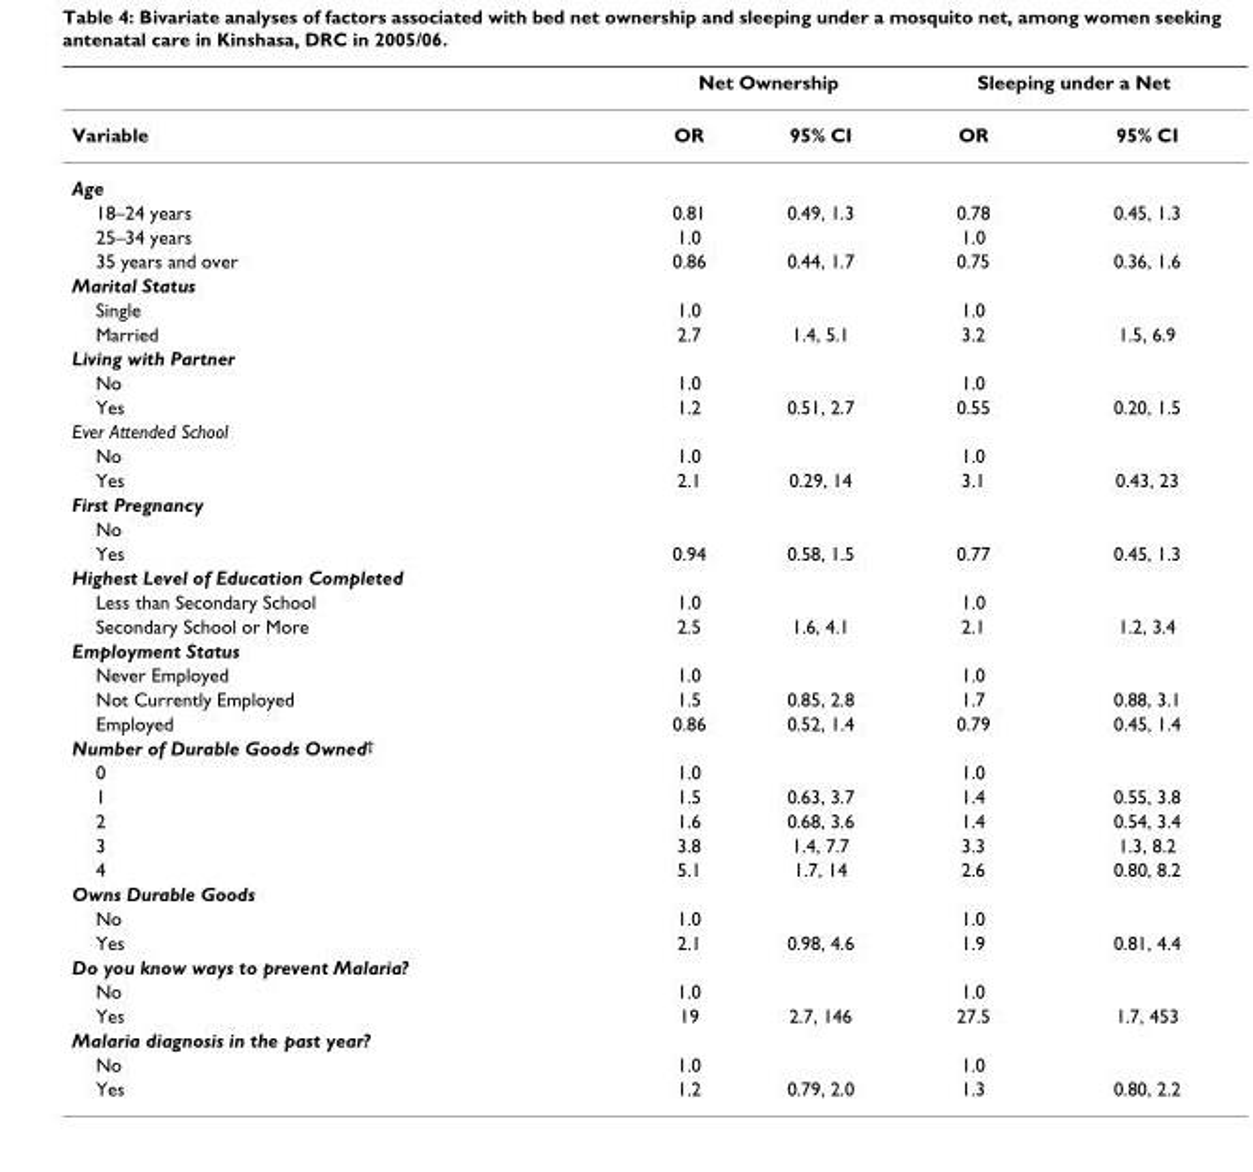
<table><thead><tr><td rowspan="2">Variable</td><td colspan="2">Net Ownership</td><td colspan="2">Sleeping under a Net</td></tr><tr><td>OR</td><td>95% CI</td><td>OR</td><td>95% CI</td></tr></thead><tbody><tr><td colspan="5">Age</td></tr><tr><td>18–24 years</td><td>0.81</td><td>0.49, 1.3</td><td>0.78</td><td>0.45, 1.3</td></tr><tr><td>25–34 years</td><td>1.0</td><td></td><td>1.0</td><td></td></tr><tr><td>35 years and over</td><td>0.86</td><td>0.44, 1.7</td><td>0.75</td><td>0.36, 1.6</td></tr><tr><td colspan="5">Marital Status</td></tr><tr><td>Single</td><td>1.0</td><td></td><td>1.0</td><td></td></tr><tr><td>Married</td><td>2.7</td><td>1.4, 5.1</td><td>3.2</td><td>1.5, 6.9</td></tr><tr><td colspan="5">Living with Partner</td></tr><tr><td>No</td><td>1.0</td><td></td><td>1.0</td><td></td></tr><tr><td>Yes</td><td>1.2</td><td>0.51, 2.7</td><td>0.55</td><td>0.20, 1.5</td></tr><tr><td colspan="5">Ever Attended School</td></tr><tr><td>No</td><td>1.0</td><td></td><td>1.0</td><td></td></tr><tr><td>Yes</td><td>2.1</td><td>0.29, 14</td><td>3.1</td><td>0.43, 23</td></tr><tr><td colspan="5">First Pregnancy</td></tr><tr><td colspan="5">No</td></tr><tr><td>Yes</td><td>0.94</td><td>0.58, 1.5</td><td>0.77</td><td>0.45, 1.3</td></tr><tr><td colspan="5">Highest Level of Education Completed</td></tr><tr><td>Less than Secondary School</td><td>1.0</td><td></td><td>1.0</td><td></td></tr><tr><td>Secondary School or More</td><td>2.5</td><td>1.6, 4.1</td><td>2.1</td><td>1.2, 3.4</td></tr><tr><td colspan="5">Employment Status</td></tr><tr><td>Never Employed</td><td>1.0</td><td></td><td>1.0</td><td></td></tr><tr><td>Not Currently Employed</td><td>1.5</td><td>0.85, 2.8</td><td>1.7</td><td>0.88, 3.1</td></tr><tr><td>Employed</td><td>0.86</td><td>0.52, 1.4</td><td>0.79</td><td>0.45, 1.4</td></tr><tr><td colspan="5">Number of Durable Goods Owned<sup>†</sup></td></tr><tr><td>0</td><td>1.0</td><td></td><td>1.0</td><td></td></tr><tr><td>1</td><td>1.5</td><td>0.63, 3.7</td><td>1.4</td><td>0.55, 3.8</td></tr><tr><td>2</td><td>1.6</td><td>0.68, 3.6</td><td>1.4</td><td>0.54, 3.4</td></tr><tr><td>3</td><td>3.8</td><td>1.4, 7.7</td><td>3.3</td><td>1.3, 8.2</td></tr><tr><td>4</td><td>5.1</td><td>1.7, 14</td><td>2.6</td><td>0.80, 8.2</td></tr><tr><td colspan="5">Owns Durable Goods</td></tr><tr><td>No</td><td>1.0</td><td></td><td>1.0</td><td></td></tr><tr><td>Yes</td><td>2.1</td><td>0.98, 4.6</td><td>1.9</td><td>0.81, 4.4</td></tr><tr><td colspan="5">Do you know ways to prevent Malaria?</td></tr><tr><td>No</td><td>1.0</td><td></td><td>1.0</td><td></td></tr><tr><td>Yes</td><td>19</td><td>2.7, 146</td><td>27.5</td><td>1.7, 453</td></tr><tr><td colspan="5">Malaria diagnosis in the past year?</td></tr><tr><td>No</td><td>1.0</td><td></td><td>1.0</td><td></td></tr><tr><td>Yes</td><td>1.2</td><td>0.79, 2.0</td><td>1.3</td><td>0.80, 2.2</td></tr></tbody></table>